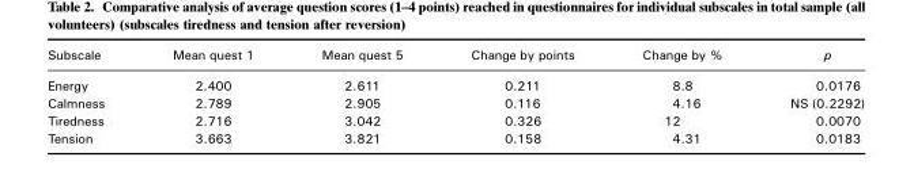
<table><thead><tr><td>Subscale</td><td>Mean quest 1</td><td>Mean quest 5</td><td>Change by points</td><td>Change by %</td><td>p</td></tr></thead><tbody><tr><td>Energy</td><td>2.400</td><td>2.611</td><td>0.211</td><td>8.8</td><td>0.0176</td></tr><tr><td>Calmness</td><td>2.789</td><td>2.905</td><td>0.116</td><td>4.16</td><td>NS (0.2292)</td></tr><tr><td>Tiredness</td><td>2.716</td><td>3.042</td><td>0.326</td><td>12</td><td>0.0070</td></tr><tr><td>Tension</td><td>3.663</td><td>3.821</td><td>0.158</td><td>4.31</td><td>0.0183</td></tr></tbody></table>